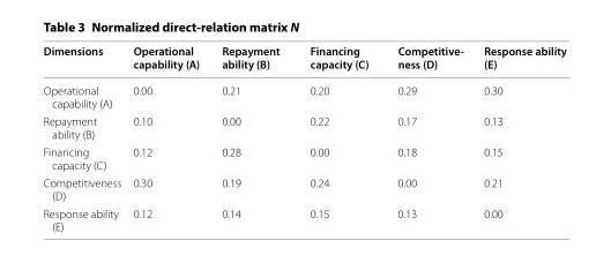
<table><thead><tr><td>Dimensions</td><td>Operational capability (A)</td><td>Repayment ability (B)</td><td>Financing capacity (C)</td><td>Competitive- ness (D)</td><td>Response ability (E)</td></tr></thead><tbody><tr><td>Operational capability (A)</td><td>0.00</td><td>0.21</td><td>0.20</td><td>0.29</td><td>0.30</td></tr><tr><td>Repayment ability (B)</td><td>0.10</td><td>0.00</td><td>0.22</td><td>0.17</td><td>0.13</td></tr><tr><td>Financing capacity (C)</td><td>0.12</td><td>0.28</td><td>0.00</td><td>0.18</td><td>0.15</td></tr><tr><td>Competitiveness (D)</td><td>0.30</td><td>0.19</td><td>0.24</td><td>0.00</td><td>0.21</td></tr><tr><td>Response ability (E)</td><td>0.12</td><td>0.14</td><td>0.15</td><td>0.13</td><td>0.00</td></tr></tbody></table>